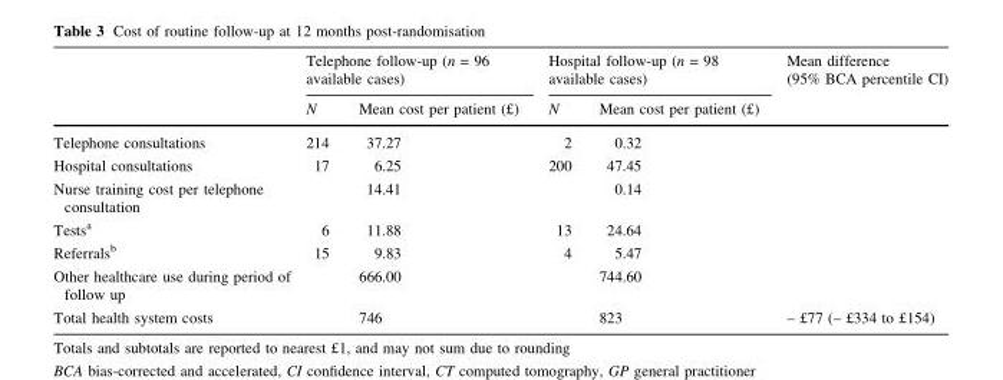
<table><thead><tr><td rowspan="2"></td><td colspan="2">Telephone follow-up (n = 96 available cases)</td><td colspan="2">Hospital follow-up (n = 98 available cases)</td><td rowspan="2">Mean difference (95% BCA percentile CI)</td></tr><tr><td>N</td><td>Mean cost per patient (£)</td><td>N</td><td>Mean cost per patient (£)</td></tr></thead><tbody><tr><td>Telephone consultations</td><td>214</td><td>37.27</td><td>2</td><td>0.32</td><td></td></tr><tr><td>Hospital consultations</td><td>17</td><td>6.25</td><td>200</td><td>47.45</td><td></td></tr><tr><td>Nurse training cost per telephone consultation</td><td></td><td>14.41</td><td></td><td>0.14</td><td></td></tr><tr><td>Tests<sup>a</sup></td><td>6</td><td>11.88</td><td>13</td><td>24.64</td><td></td></tr><tr><td>Referrals<sup>b</sup></td><td>15</td><td>9.83</td><td>4</td><td>5.47</td><td></td></tr><tr><td>Other healthcare use during period of follow up</td><td></td><td>666.00</td><td></td><td>744.60</td><td></td></tr><tr><td>Total health system costs</td><td></td><td>746</td><td></td><td>823</td><td>– £77 (– £334 to £154)</td></tr></tbody></table>